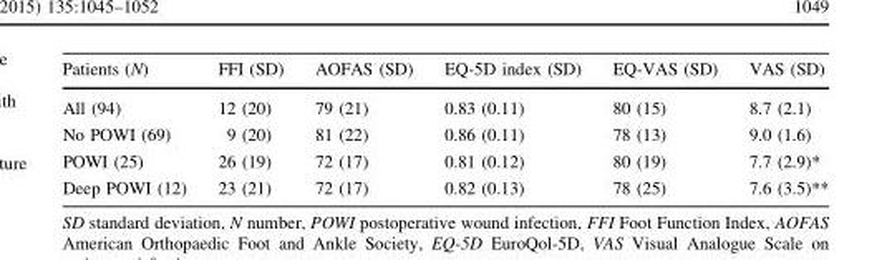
<table><thead><tr><td>Patients (N)</td><td>FFI (SD)</td><td>AOFAS (SD)</td><td>EQ-5D index (SD)</td><td>EQ-VAS (SD)</td><td>VAS (SD)</td></tr></thead><tbody><tr><td>All (94)</td><td>12 (20)</td><td>79 (21)</td><td>0.83 (0.11)</td><td>80 (15)</td><td>8.7 (2.1)</td></tr><tr><td>No POWI (69)</td><td>9 (20)</td><td>81 (22)</td><td>0.86 (0.11)</td><td>78 (13)</td><td>9.0 (1.6)</td></tr><tr><td>POWI (25)</td><td>26 (19)</td><td>72 (17)</td><td>0.81 (0.12)</td><td>80 (19)</td><td>7.7 (2.9)*</td></tr><tr><td>Deep POWI (12)</td><td>23 (21)</td><td>72 (17)</td><td>0.82 (0.13)</td><td>78 (25)</td><td>7.6 (3.5)**</td></tr></tbody></table>